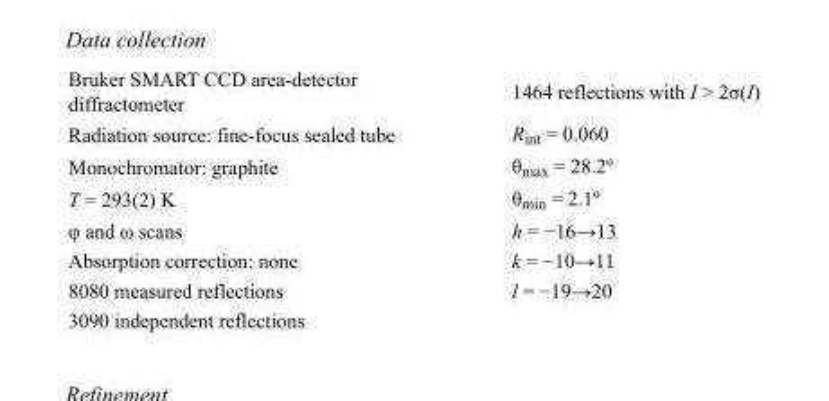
<table><tbody><tr><td>Bruker SMART CCD area-detector diffractometer</td><td>1464 reflections with I &gt; 2σ(I)</td></tr><tr><td>Radiation source: fine-focus sealed tube</td><td>R<sub>int</sub> = 0.060</td></tr><tr><td>Monochromator: graphite</td><td>θ<sub>max</sub> = 28.2º</td></tr><tr><td>T = 293(2) K</td><td>θ<sub>min</sub> = 2.1º</td></tr><tr><td>φ and ω scans</td><td>h = −16→13</td></tr><tr><td>Absorption correction: none</td><td>k = −10→11</td></tr><tr><td>8080 measured reflections</td><td>l = −19→20</td></tr><tr><td>3090 independent reflections</td><td></td></tr></tbody></table>